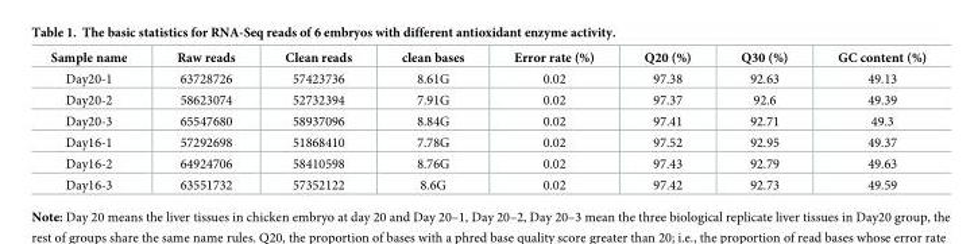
<table><thead><tr><td>Sample name</td><td>Raw reads</td><td>Clean reads</td><td>clean bases</td><td>Error rate (%)</td><td>Q20 (%)</td><td>Q30 (%)</td><td>GC content (%)</td></tr></thead><tbody><tr><td>Day20-1</td><td>63728726</td><td>57423736</td><td>8.61G</td><td>0.02</td><td>97.38</td><td>92.63</td><td>49.13</td></tr><tr><td>Day20-2</td><td>58623074</td><td>52732394</td><td>7.91G</td><td>0.02</td><td>97.37</td><td>92.6</td><td>49.39</td></tr><tr><td>Day20-3</td><td>65547680</td><td>58937096</td><td>8.84G</td><td>0.02</td><td>97.41</td><td>92.71</td><td>49.3</td></tr><tr><td>Day16-1</td><td>57292698</td><td>51868410</td><td>7.78G</td><td>0.02</td><td>97.52</td><td>92.95</td><td>49.37</td></tr><tr><td>Day16-2</td><td>64924706</td><td>58410598</td><td>8.76G</td><td>0.02</td><td>97.43</td><td>92.79</td><td>49.63</td></tr><tr><td>Day16-3</td><td>63551732</td><td>57352122</td><td>8.6G</td><td>0.02</td><td>97.42</td><td>92.73</td><td>49.59</td></tr></tbody></table>